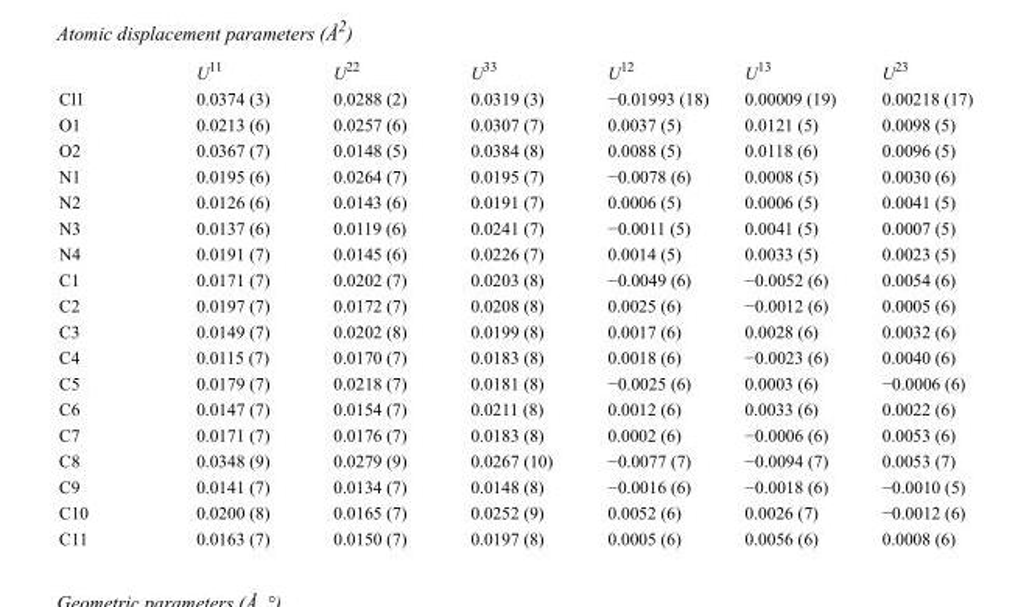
<table><thead><tr><td></td><td>U<sup>11</sup></td><td>U<sup>22</sup></td><td>U<sup>33</sup></td><td>U<sup>12</sup></td><td>U<sup>13</sup></td><td>U<sup>23</sup></td></tr></thead><tbody><tr><td>Cl1</td><td>0.0374 (3)</td><td>0.0288 (2)</td><td>0.0319 (3)</td><td>−0.01993 (18)</td><td>0.00009 (19)</td><td>0.00218 (17)</td></tr><tr><td>O1</td><td>0.0213 (6)</td><td>0.0257 (6)</td><td>0.0307 (7)</td><td>0.0037 (5)</td><td>0.0121 (5)</td><td>0.0098 (5)</td></tr><tr><td>O2</td><td>0.0367 (7)</td><td>0.0148 (5)</td><td>0.0384 (8)</td><td>0.0088 (5)</td><td>0.0118 (6)</td><td>0.0096 (5)</td></tr><tr><td>N1</td><td>0.0195 (6)</td><td>0.0264 (7)</td><td>0.0195 (7)</td><td>−0.0078 (6)</td><td>0.0008 (5)</td><td>0.0030 (6)</td></tr><tr><td>N2</td><td>0.0126 (6)</td><td>0.0143 (6)</td><td>0.0191 (7)</td><td>0.0006 (5)</td><td>0.0006 (5)</td><td>0.0041 (5)</td></tr><tr><td>N3</td><td>0.0137 (6)</td><td>0.0119 (6)</td><td>0.0241 (7)</td><td>−0.0011 (5)</td><td>0.0041 (5)</td><td>0.0007 (5)</td></tr><tr><td>N4</td><td>0.0191 (7)</td><td>0.0145 (6)</td><td>0.0226 (7)</td><td>0.0014 (5)</td><td>0.0033 (5)</td><td>0.0023 (5)</td></tr><tr><td>C1</td><td>0.0171 (7)</td><td>0.0202 (7)</td><td>0.0203 (8)</td><td>−0.0049 (6)</td><td>−0.0052 (6)</td><td>0.0054 (6)</td></tr><tr><td>C2</td><td>0.0197 (7)</td><td>0.0172 (7)</td><td>0.0208 (8)</td><td>0.0025 (6)</td><td>−0.0012 (6)</td><td>0.0005 (6)</td></tr><tr><td>C3</td><td>0.0149 (7)</td><td>0.0202 (8)</td><td>0.0199 (8)</td><td>0.0017 (6)</td><td>0.0028 (6)</td><td>0.0032 (6)</td></tr><tr><td>C4</td><td>0.0115 (7)</td><td>0.0170 (7)</td><td>0.0183 (8)</td><td>0.0018 (6)</td><td>−0.0023 (6)</td><td>0.0040 (6)</td></tr><tr><td>C5</td><td>0.0179 (7)</td><td>0.0218 (7)</td><td>0.0181 (8)</td><td>−0.0025 (6)</td><td>0.0003 (6)</td><td>−0.0006 (6)</td></tr><tr><td>C6</td><td>0.0147 (7)</td><td>0.0154 (7)</td><td>0.0211 (8)</td><td>0.0012 (6)</td><td>0.0033 (6)</td><td>0.0022 (6)</td></tr><tr><td>C7</td><td>0.0171 (7)</td><td>0.0176 (7)</td><td>0.0183 (8)</td><td>0.0002 (6)</td><td>−0.0006 (6)</td><td>0.0053 (6)</td></tr><tr><td>C8</td><td>0.0348 (9)</td><td>0.0279 (9)</td><td>0.0267 (10)</td><td>−0.0077 (7)</td><td>−0.0094 (7)</td><td>0.0053 (7)</td></tr><tr><td>C9</td><td>0.0141 (7)</td><td>0.0134 (7)</td><td>0.0148 (8)</td><td>−0.0016 (6)</td><td>−0.0018 (6)</td><td>−0.0010 (5)</td></tr><tr><td>C10</td><td>0.0200 (8)</td><td>0.0165 (7)</td><td>0.0252 (9)</td><td>0.0052 (6)</td><td>0.0026 (7)</td><td>−0.0012 (6)</td></tr><tr><td>C11</td><td>0.0163 (7)</td><td>0.0150 (7)</td><td>0.0197 (8)</td><td>0.0005 (6)</td><td>0.0056 (6)</td><td>0.0008 (6)</td></tr></tbody></table>